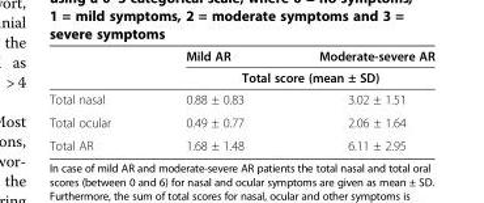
<table><thead><tr><td rowspan="2"></td><td>Mild AR</td><td>Moderate-severe AR</td></tr><tr><td colspan="2">Total score (mean ± SD)</td></tr></thead><tbody><tr><td>Total nasal</td><td>0.88 ± 0.83</td><td>3.02 ± 1.51</td></tr><tr><td>Total ocular</td><td>0.49 ± 0.77</td><td>2.06 ± 1.64</td></tr><tr><td>Total AR</td><td>1.68 ± 1.48</td><td>6.11 ± 2.95</td></tr></tbody></table>